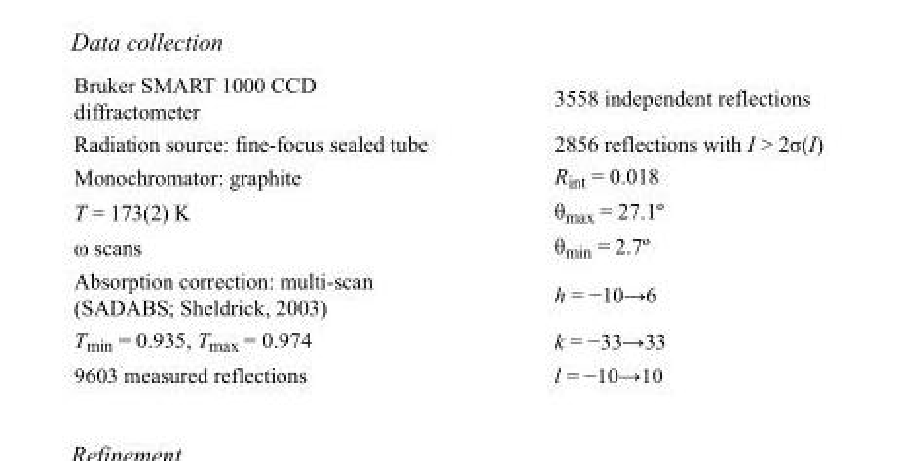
<table><tbody><tr><td>Bruker SMART 1000 CCD diffractometer</td><td>3558 independent reflections</td></tr><tr><td>Radiation source: fine-focus sealed tube</td><td>2856 reflections with I &gt; 2σ(I)</td></tr><tr><td>Monochromator: graphite</td><td>R<sub>int</sub> = 0.018</td></tr><tr><td>T = 173(2) K</td><td>θ<sub>max</sub> = 27.1º</td></tr><tr><td>ω scans</td><td>θ<sub>min</sub> = 2.7º</td></tr><tr><td>Absorption correction: multi-scan (SADABS; Sheldrick, 2003)</td><td>h = −10→6</td></tr><tr><td>T<sub>min</sub> = 0.935, T<sub>max</sub> = 0.974</td><td>k = −33→33</td></tr><tr><td>9603 measured reflections</td><td>l = −10→10</td></tr></tbody></table>